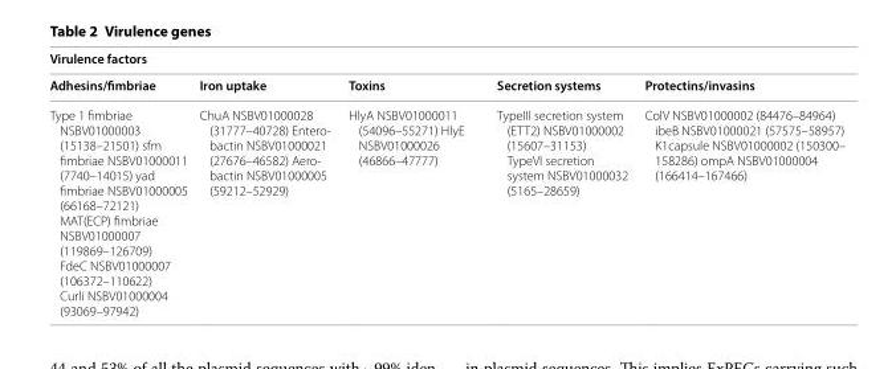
<table><thead><tr><td colspan="5">Virulence factors</td></tr><tr><td>Adhesins/fimbriae</td><td>Iron uptake</td><td>Toxins</td><td>Secretion systems</td><td>Protectins/invasins</td></tr></thead><tbody><tr><td>Type 1 fimbriae NSBV01000003 (15138–21501) sfm fimbriae NSBV01000011 (7740–14015) yad fimbriae NSBV01000005 (66168–72121) MAT(ECP) fimbriae NSBV01000007 (119869–126709) FdeC NSBV01000007 (106372–110622) Curli NSBV01000004 (93069–97942)</td><td>ChuA NSBV01000028 (31777–40728) Entero- bactin NSBV01000021 (27676–46582) Aero- bactin NSBV01000005 (59212–52929)</td><td>HlyA NSBV01000011 (54096–55271) HlyE NSBV01000026 (46866–47777)</td><td>TypeIII secretion system (ETT2) NSBV01000002 (15607–31153) TypeVI secretion system NSBV01000032 (5165–28659)</td><td>ColV NSBV01000002 (84476–84964) ibeB NSBV01000021 (57575–58957) K1capsule NSBV01000002 (150300– 158286) ompA NSBV01000004 (166414–167466)</td></tr></tbody></table>